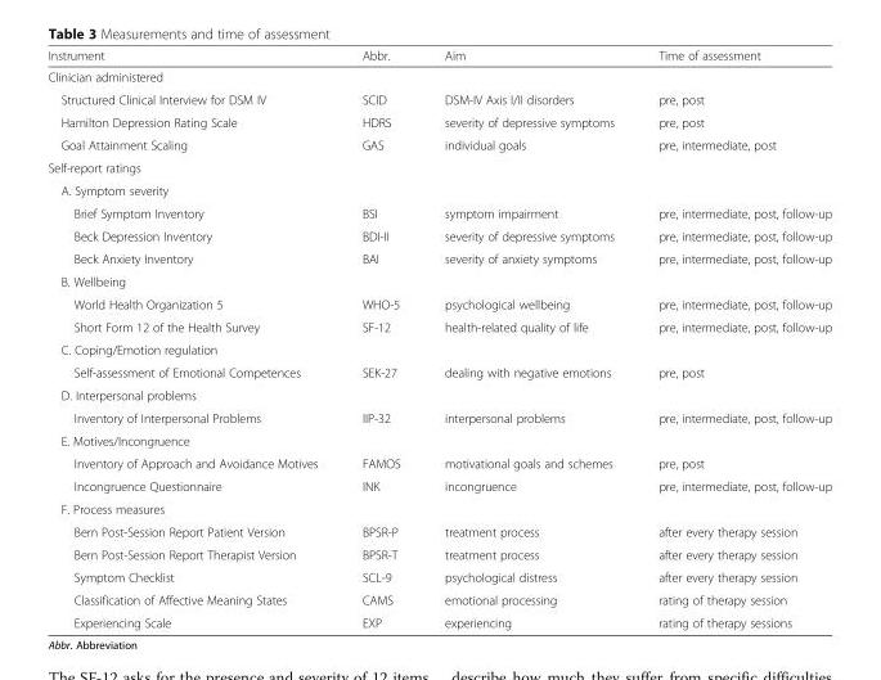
<table><thead><tr><td>Instrument</td><td>Abbr.</td><td>Aim</td><td>Time of assessment</td></tr></thead><tbody><tr><td colspan="4">Clinician administered</td></tr><tr><td>Structured Clinical Interview for DSM IV</td><td>SCID</td><td>DSM-IV Axis I/II disorders</td><td>pre, post</td></tr><tr><td>Hamilton Depression Rating Scale</td><td>HDRS</td><td>severity of depressive symptoms</td><td>pre, post</td></tr><tr><td>Goal Attainment Scaling</td><td>GAS</td><td>individual goals</td><td>pre, intermediate, post</td></tr><tr><td colspan="4">Self-report ratings</td></tr><tr><td colspan="4">A. Symptom severity</td></tr><tr><td>Brief Symptom Inventory</td><td>BSI</td><td>symptom impairment</td><td>pre, intermediate, post, follow-up</td></tr><tr><td>Beck Depression Inventory</td><td>BDI-II</td><td>severity of depressive symptoms</td><td>pre, intermediate, post, follow-up</td></tr><tr><td>Beck Anxiety Inventory</td><td>BAI</td><td>severity of anxiety symptoms</td><td>pre, intermediate, post, follow-up</td></tr><tr><td colspan="4">B. Wellbeing</td></tr><tr><td>World Health Organization 5</td><td>WHO-5</td><td>psychological wellbeing</td><td>pre, intermediate, post, follow-up</td></tr><tr><td>Short Form 12 of the Health Survey</td><td>SF-12</td><td>health-related quality of life</td><td>pre, intermediate, post, follow-up</td></tr><tr><td colspan="4">C. Coping/Emotion regulation</td></tr><tr><td>Self-assessment of Emotional Competences</td><td>SEK-27</td><td>dealing with negative emotions</td><td>pre, post</td></tr><tr><td colspan="4">D. Interpersonal problems</td></tr><tr><td>Inventory of Interpersonal Problems</td><td>IIP-32</td><td>interpersonal problems</td><td>pre, intermediate, post, follow-up</td></tr><tr><td colspan="4">E. Motives/Incongruence</td></tr><tr><td>Inventory of Approach and Avoidance Motives</td><td>FAMOS</td><td>motivational goals and schemes</td><td>pre, post</td></tr><tr><td>Incongruence Questionnaire</td><td>INK</td><td>incongruence</td><td>pre, intermediate, post, follow-up</td></tr><tr><td colspan="4">F. Process measures</td></tr><tr><td>Bern Post-Session Report Patient Version</td><td>BPSR-P</td><td>treatment process</td><td>after every therapy session</td></tr><tr><td>Bern Post-Session Report Therapist Version</td><td>BPSR-T</td><td>treatment process</td><td>after every therapy session</td></tr><tr><td>Symptom Checklist</td><td>SCL-9</td><td>psychological distress</td><td>after every therapy session</td></tr><tr><td>Classification of Affective Meaning States</td><td>CAMS</td><td>emotional processing</td><td>rating of therapy session</td></tr><tr><td>Experiencing Scale</td><td>EXP</td><td>experiencing</td><td>rating of therapy sessions</td></tr></tbody></table>